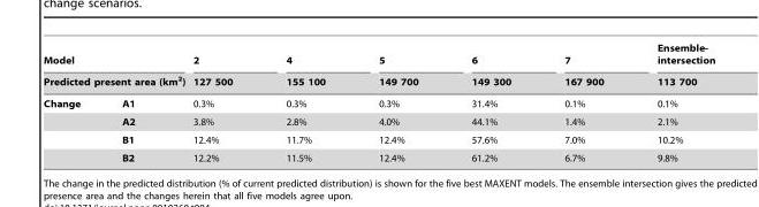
<table><thead><tr><td rowspan="2" colspan="2">Model Predicted present area (km<sup>2</sup>)</td><td rowspan="3">2 127 500 0.3%</td><td rowspan="3">4 155 100 0.3%</td><td rowspan="3">5 149 700 0.3%</td><td rowspan="3">6 149 300 31.4%</td><td rowspan="3">7 167 900 0.1%</td><td rowspan="3">Ensemble- intersection 113 700 0.1%</td></tr><tr></tr><tr><td>Change</td><td>A1</td></tr></thead><tbody><tr><td></td><td>A2</td><td>3.8%</td><td>2.8%</td><td>4.0%</td><td>44.1%</td><td>1.4%</td><td>2.1%</td></tr><tr><td></td><td>B1</td><td>12.4%</td><td>11.7%</td><td>12.4%</td><td>57.6%</td><td>7.0%</td><td>10.2%</td></tr><tr><td></td><td>B2</td><td>12.2%</td><td>11.5%</td><td>12.4%</td><td>61.2%</td><td>6.7%</td><td>9.8%</td></tr></tbody></table>